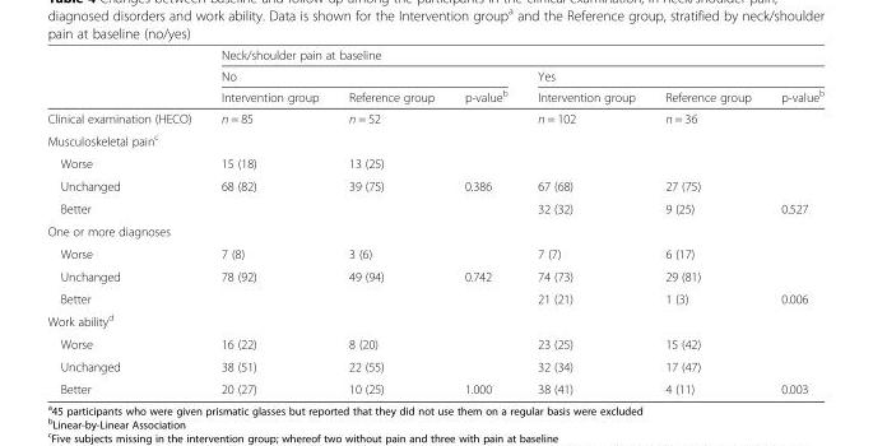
<table><thead><tr><td rowspan="3"></td><td colspan="6">Neck/shoulder pain at baseline</td></tr><tr><td colspan="3">No</td><td colspan="3">Yes</td></tr><tr><td>Intervention group</td><td>Reference group</td><td>p-value<sup>b</sup></td><td>Intervention group</td><td>Reference group</td><td>p-value<sup>b</sup></td></tr></thead><tbody><tr><td>Clinical examination (HECO)</td><td>n = 85</td><td>n = 52</td><td></td><td>n = 102</td><td>n = 36</td><td></td></tr><tr><td colspan="7">Musculoskeletal pain<sup>c</sup></td></tr><tr><td>Worse</td><td>15 (18)</td><td>13 (25)</td><td></td><td></td><td></td><td></td></tr><tr><td>Unchanged</td><td>68 (82)</td><td>39 (75)</td><td>0.386</td><td>67 (68)</td><td>27 (75)</td><td></td></tr><tr><td>Better</td><td></td><td></td><td></td><td>32 (32)</td><td>9 (25)</td><td>0.527</td></tr><tr><td colspan="7">One or more diagnoses</td></tr><tr><td>Worse</td><td>7 (8)</td><td>3 (6)</td><td></td><td>7 (7)</td><td>6 (17)</td><td></td></tr><tr><td>Unchanged</td><td>78 (92)</td><td>49 (94)</td><td>0.742</td><td>74 (73)</td><td>29 (81)</td><td></td></tr><tr><td>Better</td><td></td><td></td><td></td><td>21 (21)</td><td>1 (3)</td><td>0.006</td></tr><tr><td colspan="7">Work ability<sup>d</sup></td></tr><tr><td>Worse</td><td>16 (22)</td><td>8 (20)</td><td></td><td>23 (25)</td><td>15 (42)</td><td></td></tr><tr><td>Unchanged</td><td>38 (51)</td><td>22 (55)</td><td></td><td>32 (34)</td><td>17 (47)</td><td></td></tr><tr><td>Better</td><td>20 (27)</td><td>10 (25)</td><td>1.000</td><td>38 (41)</td><td>4 (11)</td><td>0.003</td></tr></tbody></table>